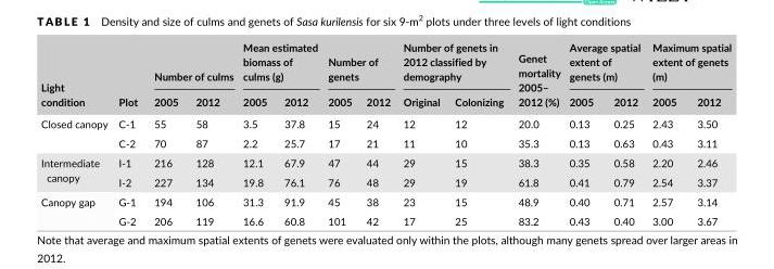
<table><thead><tr><td rowspan="2">Light condition</td><td rowspan="2">Plot</td><td colspan="2">Number of culms</td><td colspan="2">Mean estimated biomass of culms (g)</td><td colspan="2">Number of genets</td><td colspan="2">Number of genets in 2012 classified by demography</td><td rowspan="2">Genet mortality 2005– 2012 (%)</td><td colspan="2">Average spatial extent of genets (m)</td><td colspan="2">Maximum spatial extent of genets (m)</td></tr><tr><td>2005</td><td>2012</td><td>2005</td><td>2012</td><td>2005</td><td>2012</td><td>Original</td><td>Colonizing</td><td>2005</td><td>2012</td><td>2005</td><td>2012</td></tr></thead><tbody><tr><td rowspan="2">Closed canopy</td><td>C- 1</td><td>55</td><td>58</td><td>3.5</td><td>37.8</td><td>15</td><td>24</td><td>12</td><td>12</td><td>20.0</td><td>0.13</td><td>0.25</td><td>2.43</td><td>3.50</td></tr><tr><td>C- 2</td><td>70</td><td>87</td><td>2.2</td><td>25.7</td><td>17</td><td>21</td><td>11</td><td>10</td><td>35.3</td><td>0.13</td><td>0.63</td><td>0.43</td><td>3.11</td></tr><tr><td rowspan="2">Intermediate canopy</td><td>I- 1</td><td>216</td><td>128</td><td>12.1</td><td>67.9</td><td>47</td><td>44</td><td>29</td><td>15</td><td>38.3</td><td>0.35</td><td>0.58</td><td>2.20</td><td>2.46</td></tr><tr><td>I- 2</td><td>227</td><td>134</td><td>19.8</td><td>76.1</td><td>76</td><td>48</td><td>29</td><td>19</td><td>61.8</td><td>0.41</td><td>0.79</td><td>2.54</td><td>3.37</td></tr><tr><td rowspan="2">Canopy gap</td><td>G- 1</td><td>194</td><td>106</td><td>31.3</td><td>91.9</td><td>45</td><td>38</td><td>23</td><td>15</td><td>48.9</td><td>0.40</td><td>0.71</td><td>2.57</td><td>3.14</td></tr><tr><td>G- 2</td><td>206</td><td>119</td><td>16.6</td><td>60.8</td><td>101</td><td>42</td><td>17</td><td>25</td><td>83.2</td><td>0.43</td><td>0.40</td><td>3.00</td><td>3.67</td></tr></tbody></table>